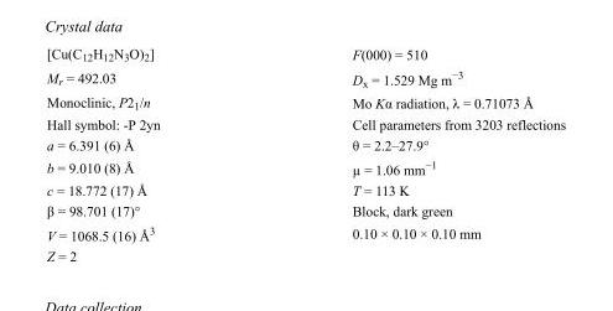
<table><tbody><tr><td>[Cu(C<sub>12</sub>H<sub>12</sub>N<sub>3</sub>O)<sub>2</sub>]</td><td>F(000) = 510</td></tr><tr><td>M<sub>r</sub> = 492.03</td><td>D<sub>x</sub> = 1.529 Mg m<sup>−3</sup></td></tr><tr><td>Monoclinic, P2<sub>1</sub>/n</td><td>Mo Kα radiation, λ = 0.71073 Å</td></tr><tr><td>Hall symbol: -P 2yn</td><td>Cell parameters from 3203 reflections</td></tr><tr><td>a = 6.391 (6) Å</td><td>θ = 2.2–27.9°</td></tr><tr><td>b = 9.010 (8) Å</td><td>µ = 1.06 mm<sup>−1</sup></td></tr><tr><td>c = 18.772 (17) Å</td><td>T = 113 K</td></tr><tr><td>β = 98.701 (17)°</td><td>Block, dark green</td></tr><tr><td>V = 1068.5 (16) Å<sup>3</sup></td><td>0.10 × 0.10 × 0.10 mm</td></tr><tr><td>Z = 2</td><td></td></tr></tbody></table>